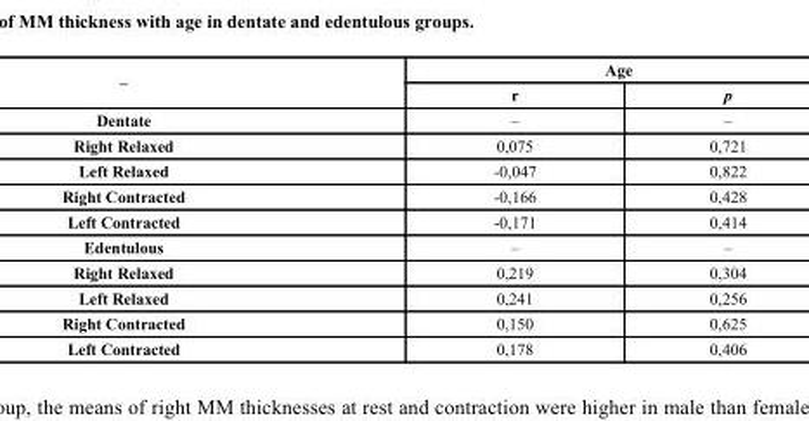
<table><thead><tr><td rowspan="2">–</td><td colspan="2">Age</td></tr><tr><td>r</td><td>p</td></tr></thead><tbody><tr><td>Dentate</td><td>–</td><td>–</td></tr><tr><td>Right Relaxed</td><td>0,075</td><td>0,721</td></tr><tr><td>Left Relaxed</td><td>-0,047</td><td>0,822</td></tr><tr><td>Right Contracted</td><td>-0,166</td><td>0,428</td></tr><tr><td>Left Contracted</td><td>-0,171</td><td>0,414</td></tr><tr><td>Edentulous</td><td>–</td><td>–</td></tr><tr><td>Right Relaxed</td><td>0,219</td><td>0,304</td></tr><tr><td>Left Relaxed</td><td>0,241</td><td>0,256</td></tr><tr><td>Right Contracted</td><td>0,150</td><td>0,625</td></tr><tr><td>Left Contracted</td><td>0,178</td><td>0,406</td></tr></tbody></table>